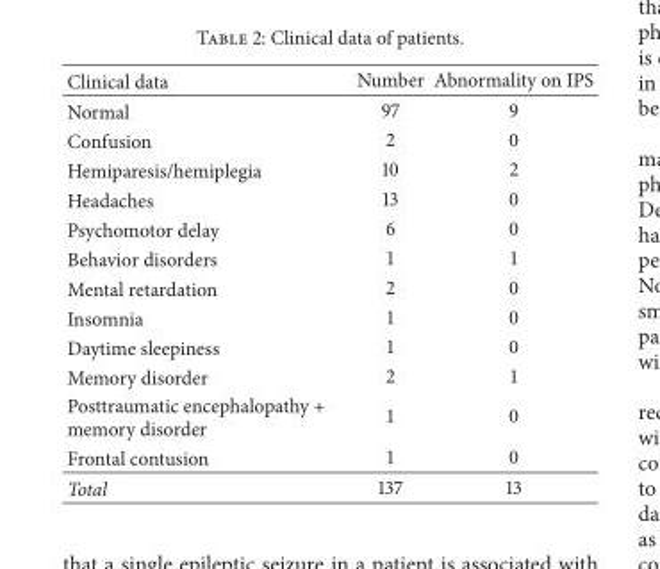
<table><thead><tr><td>Clinical data</td><td>Number</td><td>Abnormality on IPS</td></tr></thead><tbody><tr><td>Normal</td><td>97</td><td>9</td></tr><tr><td>Confusion</td><td>2</td><td>0</td></tr><tr><td>Hemiparesis/hemiplegia</td><td>10</td><td>2</td></tr><tr><td>Headaches</td><td>13</td><td>0</td></tr><tr><td>Psychomotor delay</td><td>6</td><td>0</td></tr><tr><td>Behavior disorders</td><td>1</td><td>1</td></tr><tr><td>Mental retardation</td><td>2</td><td>0</td></tr><tr><td>Insomnia</td><td>1</td><td>0</td></tr><tr><td>Daytime sleepiness</td><td>1</td><td>0</td></tr><tr><td>Memory disorder</td><td>2</td><td>1</td></tr><tr><td>Posttraumatic encephalopathy + memory disorder</td><td>1</td><td>0</td></tr><tr><td>Frontal contusion</td><td>1</td><td>0</td></tr><tr><td>Total</td><td>137</td><td>13</td></tr></tbody></table>